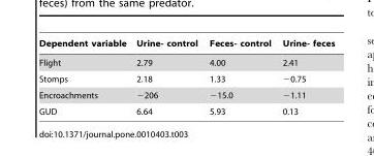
<table><thead><tr><td>Dependent variable</td><td>Urine- control</td><td>Feces- control</td><td>Urine- feces</td></tr></thead><tbody><tr><td>Flight</td><td>2.79</td><td>4.00</td><td>2.41</td></tr><tr><td>Stomps</td><td>2.18</td><td>1.33</td><td>−0.75</td></tr><tr><td>Encroachments</td><td>−206</td><td>−15.0</td><td>−1.11</td></tr><tr><td>GUD</td><td>6.64</td><td>5.93</td><td>0.13</td></tr></tbody></table>